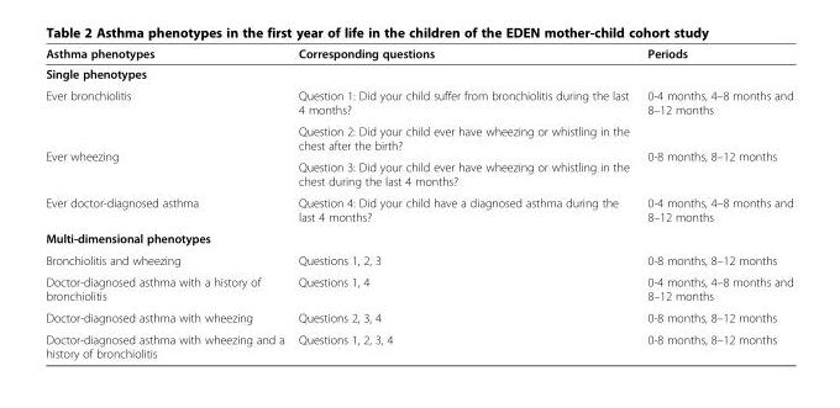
<table><thead><tr><td>Asthma phenotypes</td><td>Corresponding questions</td><td>Periods</td></tr></thead><tbody><tr><td colspan="3">Single phenotypes</td></tr><tr><td>Ever bronchiolitis</td><td>Question 1: Did your child suffer from bronchiolitis during the last 4 months?</td><td>0-4 months, 4–8 months and 8–12 months</td></tr><tr><td rowspan="2">Ever wheezing</td><td>Question 2: Did your child ever have wheezing or whistling in the chest after the birth?</td><td rowspan="2">0-8 months, 8–12 months</td></tr><tr><td>Question 3: Did your child ever have wheezing or whistling in the chest during the last 4 months?</td></tr><tr><td>Ever doctor-diagnosed asthma</td><td>Question 4: Did your child have a diagnosed asthma during the last 4 months?</td><td>0-4 months, 4–8 months and 8–12 months</td></tr><tr><td colspan="3">Multi-dimensional phenotypes</td></tr><tr><td>Bronchiolitis and wheezing</td><td>Questions 1, 2, 3</td><td>0-8 months, 8–12 months</td></tr><tr><td>Doctor-diagnosed asthma with a history of bronchiolitis</td><td>Questions 1, 4</td><td>0-4 months, 4–8 months and 8–12 months</td></tr><tr><td>Doctor-diagnosed asthma with wheezing</td><td>Questions 2, 3, 4</td><td>0-8 months, 8–12 months</td></tr><tr><td>Doctor-diagnosed asthma with wheezing and a history of bronchiolitis</td><td>Questions 1, 2, 3, 4</td><td>0-8 months, 8–12 months</td></tr></tbody></table>